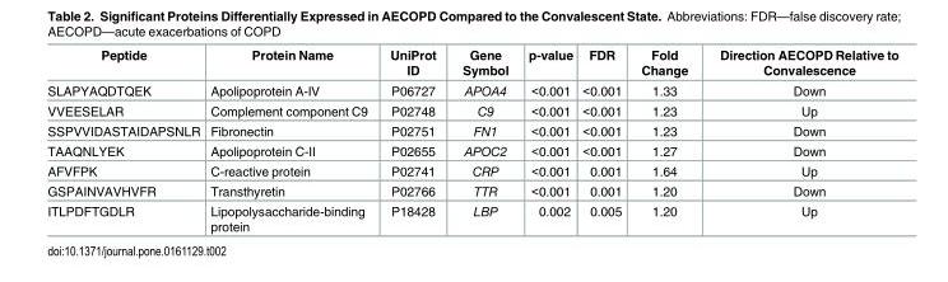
<table><thead><tr><td>Peptide</td><td>Protein Name</td><td>UniProt ID</td><td>Gene Symbol</td><td>p-value</td><td>FDR</td><td>Fold Change</td><td>Direction AECOPD Relative to Convalescence</td></tr></thead><tbody><tr><td>SLAPYAQDTQEK</td><td>Apolipoprotein A-IV</td><td>P06727</td><td>APOA4</td><td>&lt;0.001</td><td>&lt;0.001</td><td>1.33</td><td>Down</td></tr><tr><td>VVEESELAR</td><td>Complement component C9</td><td>P02748</td><td>C9</td><td>&lt;0.001</td><td>&lt;0.001</td><td>1.23</td><td>Up</td></tr><tr><td>SSPVVIDASTAIDAPSNLR</td><td>Fibronectin</td><td>P02751</td><td>FN1</td><td>&lt;0.001</td><td>&lt;0.001</td><td>1.23</td><td>Down</td></tr><tr><td>TAAQNLYEK</td><td>Apolipoprotein C-II</td><td>P02655</td><td>APOC2</td><td>&lt;0.001</td><td>&lt;0.001</td><td>1.27</td><td>Down</td></tr><tr><td>AFVFPK</td><td>C-reactive protein</td><td>P02741</td><td>CRP</td><td>&lt;0.001</td><td>0.001</td><td>1.64</td><td>Up</td></tr><tr><td>GSPAINVAVHVFR</td><td>Transthyretin</td><td>P02766</td><td>TTR</td><td>&lt;0.001</td><td>0.001</td><td>1.20</td><td>Down</td></tr><tr><td>ITLPDFTGDLR</td><td>Lipopolysaccharide-binding protein</td><td>P18428</td><td>LBP</td><td>0.002</td><td>0.005</td><td>1.20</td><td>Up</td></tr></tbody></table>